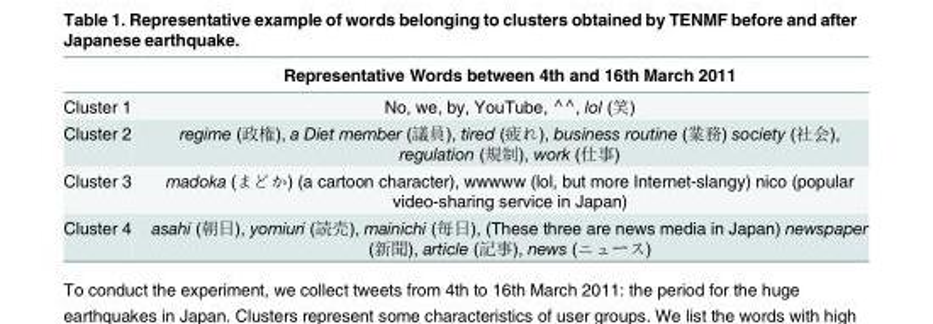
<table><thead><tr><td></td><td>Representative Words between 4th and 16th March 2011</td></tr></thead><tbody><tr><td>Cluster 1</td><td>No, we, by, YouTube, ⌃⌃, lol (笑)</td></tr><tr><td>Cluster 2</td><td>regime (政権), a Diet member (議員), tired (疲れ), business routine (業務) society (社会), regulation (規制), work (仕事)</td></tr><tr><td>Cluster 3</td><td>madoka (まどか) (a cartoon character), wwwww (lol, but more Internet-slangy) nico (popular video-sharing service in Japan)</td></tr><tr><td>Cluster 4</td><td>asahi (朝日), yomiuri (読売), mainichi (毎日), (These three are news media in Japan) newspaper (新聞), article (記事), news (ニュース)</td></tr></tbody></table>